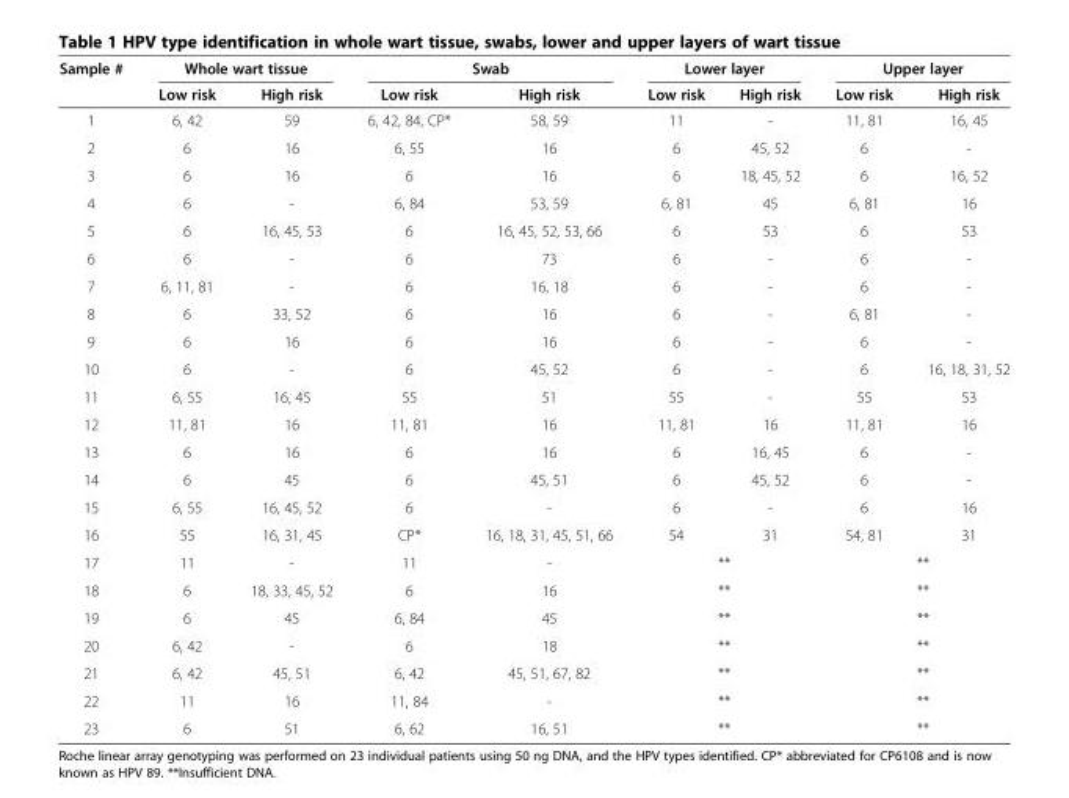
<table><thead><tr><td rowspan="2">Sample #</td><td colspan="2">Whole wart tissue</td><td colspan="2">Swab</td><td colspan="2">Lower layer</td><td colspan="2">Upper layer</td></tr><tr><td>Low risk</td><td>High risk</td><td>Low risk</td><td>High risk</td><td>Low risk</td><td>High risk</td><td>Low risk</td><td>High risk</td></tr></thead><tbody><tr><td>1</td><td>6, 42</td><td>59</td><td>6, 42, 84, CP*</td><td>58, 59</td><td>11</td><td>-</td><td>11, 81</td><td>16, 45</td></tr><tr><td>2</td><td>6</td><td>16</td><td>6, 55</td><td>16</td><td>6</td><td>45, 52</td><td>6</td><td>-</td></tr><tr><td>3</td><td>6</td><td>16</td><td>6</td><td>16</td><td>6</td><td>18, 45, 52</td><td>6</td><td>16, 52</td></tr><tr><td>4</td><td>6</td><td>-</td><td>6, 84</td><td>53, 59</td><td>6, 81</td><td>45</td><td>6, 81</td><td>16</td></tr><tr><td>5</td><td>6</td><td>16, 45, 53</td><td>6</td><td>16, 45, 52, 53, 66</td><td>6</td><td>53</td><td>6</td><td>53</td></tr><tr><td>6</td><td>6</td><td>-</td><td>6</td><td>73</td><td>6</td><td>-</td><td>6</td><td>-</td></tr><tr><td>7</td><td>6, 11, 81</td><td>-</td><td>6</td><td>16, 18</td><td>6</td><td>-</td><td>6</td><td>-</td></tr><tr><td>8</td><td>6</td><td>33, 52</td><td>6</td><td>16</td><td>6</td><td>-</td><td>6, 81</td><td>-</td></tr><tr><td>9</td><td>6</td><td>16</td><td>6</td><td>16</td><td>6</td><td>-</td><td>6</td><td>-</td></tr><tr><td>10</td><td>6</td><td>-</td><td>6</td><td>45, 52</td><td>6</td><td>-</td><td>6</td><td>16, 18, 31, 52</td></tr><tr><td>11</td><td>6, 55</td><td>16, 45</td><td>55</td><td>51</td><td>55</td><td>-</td><td>55</td><td>53</td></tr><tr><td>12</td><td>11, 81</td><td>16</td><td>11, 81</td><td>16</td><td>11, 81</td><td>16</td><td>11, 81</td><td>16</td></tr><tr><td>13</td><td>6</td><td>16</td><td>6</td><td>16</td><td>6</td><td>16, 45</td><td>6</td><td>-</td></tr><tr><td>14</td><td>6</td><td>45</td><td>6</td><td>45, 51</td><td>6</td><td>45, 52</td><td>6</td><td>-</td></tr><tr><td>15</td><td>6, 55</td><td>16, 45, 52</td><td>6</td><td>-</td><td>6</td><td>-</td><td>6</td><td>16</td></tr><tr><td>16</td><td>55</td><td>16, 31, 45</td><td>CP*</td><td>16, 18, 31, 45, 51, 66</td><td>54</td><td>31</td><td>54, 81</td><td>31</td></tr><tr><td>17</td><td>11</td><td>-</td><td>11</td><td>-</td><td colspan="2">**</td><td colspan="2">**</td></tr><tr><td>18</td><td>6</td><td>18, 33, 45, 52</td><td>6</td><td>16</td><td colspan="2">**</td><td colspan="2">**</td></tr><tr><td>19</td><td>6</td><td>45</td><td>6, 84</td><td>45</td><td colspan="2">**</td><td colspan="2">**</td></tr><tr><td>20</td><td>6, 42</td><td>-</td><td>6</td><td>18</td><td colspan="2">**</td><td colspan="2">**</td></tr><tr><td>21</td><td>6, 42</td><td>45, 51</td><td>6, 42</td><td>45, 51, 67, 82</td><td colspan="2">**</td><td colspan="2">**</td></tr><tr><td>22</td><td>11</td><td>16</td><td>11, 84</td><td>-</td><td colspan="2">**</td><td colspan="2">**</td></tr><tr><td>23</td><td>6</td><td>51</td><td>6, 62</td><td>16, 51</td><td colspan="2">**</td><td colspan="2">**</td></tr></tbody></table>